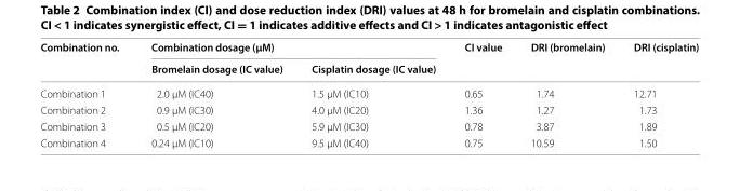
<table><thead><tr><td rowspan="2">Combination no.</td><td colspan="2">Combination dosage (µM)</td><td rowspan="2">CI value</td><td rowspan="2">DRI (bromelain)</td><td rowspan="2">DRI (cisplatin)</td></tr><tr><td>Bromelain dosage (IC value)</td><td>Cisplatin dosage (IC value)</td></tr></thead><tbody><tr><td>Combination 1</td><td>2.0 µM (IC40)</td><td>1.5 µM (IC10)</td><td>0.65</td><td>1.74</td><td>12.71</td></tr><tr><td>Combination 2</td><td>0.9 µM (IC30)</td><td>4.0 µM (IC20)</td><td>1.36</td><td>1.27</td><td>1.73</td></tr><tr><td>Combination 3</td><td>0.5 µM (IC20)</td><td>5.9 µM (IC30)</td><td>0.78</td><td>3.87</td><td>1.89</td></tr><tr><td>Combination 4</td><td>0.24 µM (IC10)</td><td>9.5 µM (IC40)</td><td>0.75</td><td>10.59</td><td>1.50</td></tr></tbody></table>